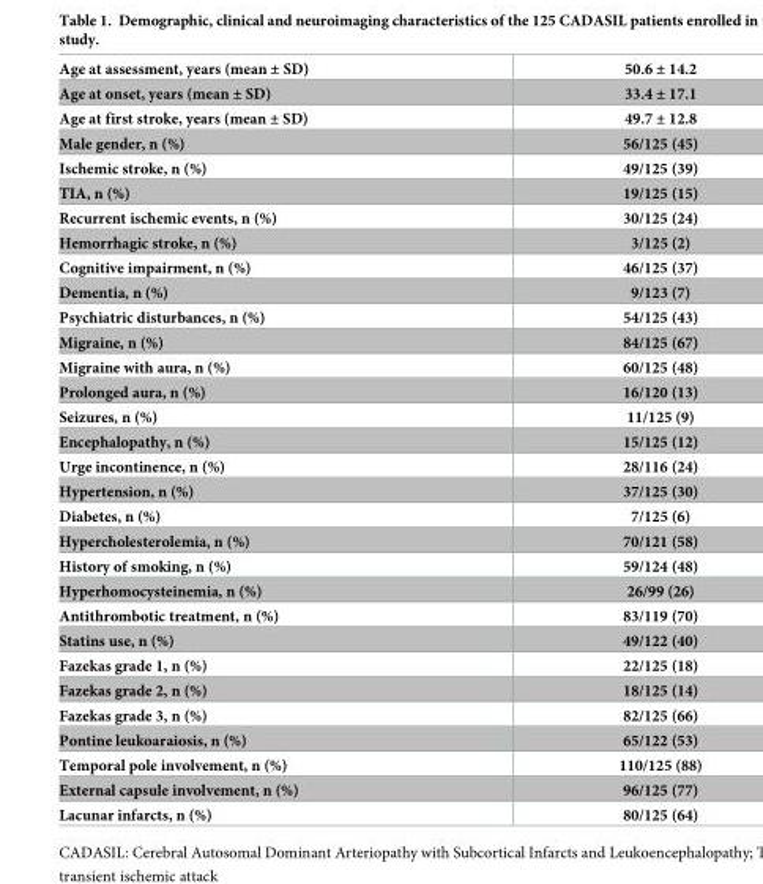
<table><tbody><tr><td>Age at assessment, years (mean ± SD)</td><td>50.6 ± 14.2</td></tr><tr><td>Age at onset, years (mean ± SD)</td><td>33.4 ± 17.1</td></tr><tr><td>Age at first stroke, years (mean ± SD)</td><td>49.7 ± 12.8</td></tr><tr><td>Male gender, n (%)</td><td>56/125 (45)</td></tr><tr><td>Ischemic stroke, n (%)</td><td>49/125 (39)</td></tr><tr><td>TIA, n (%)</td><td>19/125 (15)</td></tr><tr><td>Recurrent ischemic events, n (%)</td><td>30/125 (24)</td></tr><tr><td>Hemorrhagic stroke, n (%)</td><td>3/125 (2)</td></tr><tr><td>Cognitive impairment, n (%)</td><td>46/125 (37)</td></tr><tr><td>Dementia, n (%)</td><td>9/123 (7)</td></tr><tr><td>Psychiatric disturbances, n (%)</td><td>54/125 (43)</td></tr><tr><td>Migraine, n (%)</td><td>84/125 (67)</td></tr><tr><td>Migraine with aura, n (%)</td><td>60/125 (48)</td></tr><tr><td>Prolonged aura, n (%)</td><td>16/120 (13)</td></tr><tr><td>Seizures, n (%)</td><td>11/125 (9)</td></tr><tr><td>Encephalopathy, n (%)</td><td>15/125 (12)</td></tr><tr><td>Urge incontinence, n (%)</td><td>28/116 (24)</td></tr><tr><td>Hypertension, n (%)</td><td>37/125 (30)</td></tr><tr><td>Diabetes, n (%)</td><td>7/125 (6)</td></tr><tr><td>Hypercholesterolemia, n (%)</td><td>70/121 (58)</td></tr><tr><td>History of smoking, n (%)</td><td>59/124 (48)</td></tr><tr><td>Hyperhomocysteinemia, n (%)</td><td>26/99 (26)</td></tr><tr><td>Antithrombotic treatment, n (%)</td><td>83/119 (70)</td></tr><tr><td>Statins use, n (%)</td><td>49/122 (40)</td></tr><tr><td>Fazekas grade 1, n (%)</td><td>22/125 (18)</td></tr><tr><td>Fazekas grade 2, n (%)</td><td>18/125 (14)</td></tr><tr><td>Fazekas grade 3, n (%)</td><td>82/125 (66)</td></tr><tr><td>Pontine leukoaraiosis, n (%)</td><td>65/122 (53)</td></tr><tr><td>Temporal pole involvement, n (%)</td><td>110/125 (88)</td></tr><tr><td>External capsule involvement, n (%)</td><td>96/125 (77)</td></tr><tr><td>Lacunar infarcts, n (%)</td><td>80/125 (64)</td></tr></tbody></table>